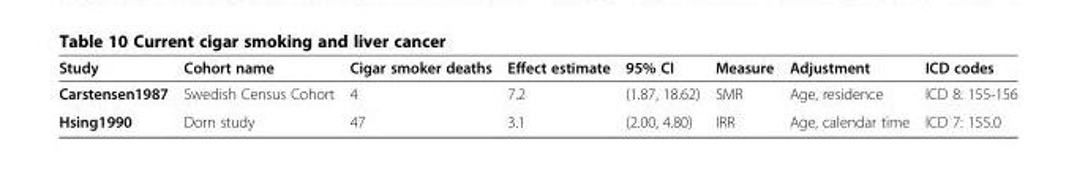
<table><thead><tr><td>Study</td><td>Cohort name</td><td>Cigar smoker deaths</td><td>Effect estimate</td><td>95% CI</td><td>Measure</td><td>Adjustment</td><td>ICD codes</td></tr></thead><tbody><tr><td>Carstensen1987</td><td>Swedish Census Cohort</td><td>4</td><td>7.2</td><td>(1.87, 18.62)</td><td>SMR</td><td>Age, residence</td><td>ICD 8: 155-156</td></tr><tr><td>Hsing1990</td><td>Dorn study</td><td>47</td><td>3.1</td><td>(2.00, 4.80)</td><td>IRR</td><td>Age, calendar time</td><td>ICD 7: 155.0</td></tr></tbody></table>